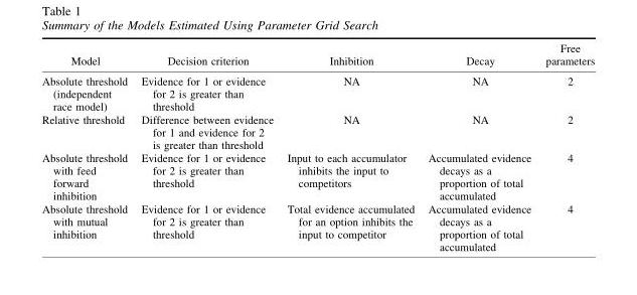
<table><thead><tr><td>Model</td><td>Decision criterion</td><td>Inhibition</td><td>Decay</td><td>Free parameters</td></tr></thead><tbody><tr><td>Absolute threshold (independent race model)</td><td>Evidence for 1 or evidence for 2 is greater than threshold</td><td>NA</td><td>NA</td><td>2</td></tr><tr><td>Relative threshold</td><td>Difference between evidence for 1 and evidence for 2 is greater than threshold</td><td>NA</td><td>NA</td><td>2</td></tr><tr><td>Absolute threshold with feed forward inhibition</td><td>Evidence for 1 or evidence for 2 is greater than threshold</td><td>Input to each accumulator inhibits the input to competitors</td><td>Accumulated evidence decays as a proportion of total accumulated</td><td>4</td></tr><tr><td>Absolute threshold with mutual inhibition</td><td>Evidence for 1 or evidence for 2 is greater than threshold</td><td>Total evidence accumulated for an option inhibits the input to competitor</td><td>Accumulated evidence decays as a proportion of total accumulated</td><td>4</td></tr></tbody></table>